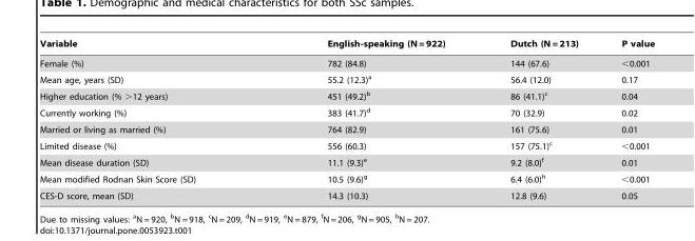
<table><thead><tr><td>Variable</td><td>English-speaking (N = 922)</td><td>Dutch (N = 213)</td><td>P value</td></tr></thead><tbody><tr><td>Female (%)</td><td>782 (84.8)</td><td>144 (67.6)</td><td>&lt;0.001</td></tr><tr><td>Mean age, years (SD)</td><td>55.2 (12.3)<sup>a</sup></td><td>56.4 (12.0)</td><td>0.17</td></tr><tr><td>Higher education (% &gt;12 years)</td><td>451 (49.2)<sup>b</sup></td><td>86 (41.1)<sup>c</sup></td><td>0.04</td></tr><tr><td>Currently working (%)</td><td>383 (41.7)<sup>d</sup></td><td>70 (32.9)</td><td>0.02</td></tr><tr><td>Married or living as married (%)</td><td>764 (82.9)</td><td>161 (75.6)</td><td>0.01</td></tr><tr><td>Limited disease (%)</td><td>556 (60.3)</td><td>157 (75.1)<sup>c</sup></td><td>&lt;0.001</td></tr><tr><td>Mean disease duration (SD)</td><td>11.1 (9.3)<sup>e</sup></td><td>9.2 (8.0)<sup>f</sup></td><td>0.01</td></tr><tr><td>Mean modified Rodnan Skin Score (SD)</td><td>10.5 (9.6)<sup>g</sup></td><td>6.4 (6.0)<sup>h</sup></td><td>&lt;0.001</td></tr><tr><td>CES-D score, mean (SD)</td><td>14.3 (10.3)</td><td>12.8 (9.6)</td><td>0.05</td></tr></tbody></table>